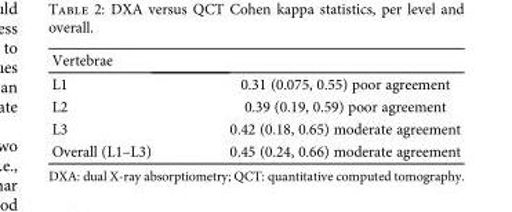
<table><thead><tr><td>Vertebrae</td><td></td></tr></thead><tbody><tr><td>L1</td><td>0.31 (0.075, 0.55) poor agreement</td></tr><tr><td>L2</td><td>0.39 (0.19, 0.59) poor agreement</td></tr><tr><td>L3</td><td>0.42 (0.18, 0.65) moderate agreement</td></tr><tr><td>Overall (L1–L3)</td><td>0.45 (0.24, 0.66) moderate agreement</td></tr></tbody></table>